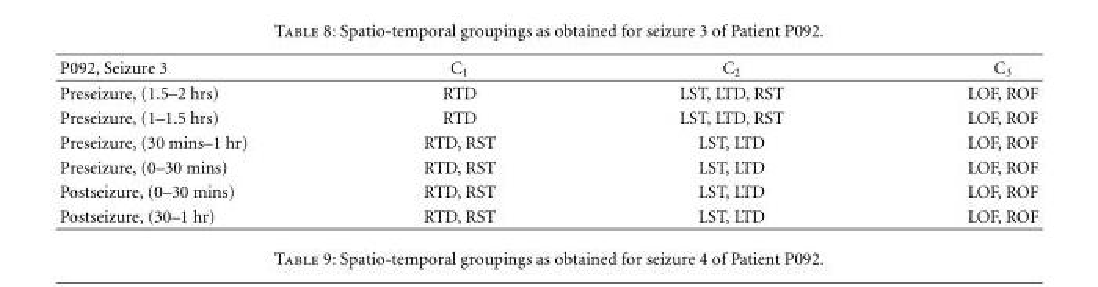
<table><thead><tr><td>P092, Seizure 3</td><td>C<sub>1</sub></td><td>C<sub>2</sub></td><td>C<sub>3</sub></td></tr></thead><tbody><tr><td>Preseizure, (1.5–2 hrs)</td><td>RTD</td><td>LST, LTD, RST</td><td>LOF, ROF</td></tr><tr><td>Preseizure, (1–1.5 hrs)</td><td>RTD</td><td>LST, LTD, RST</td><td>LOF, ROF</td></tr><tr><td>Preseizure, (30 mins–1 hr)</td><td>RTD, RST</td><td>LST, LTD</td><td>LOF, ROF</td></tr><tr><td>Preseizure, (0–30 mins)</td><td>RTD, RST</td><td>LST, LTD</td><td>LOF, ROF</td></tr><tr><td>Postseizure, (0–30 mins)</td><td>RTD, RST</td><td>LST, LTD</td><td>LOF, ROF</td></tr><tr><td>Postseizure, (30–1 hr)</td><td>RTD, RST</td><td>LST, LTD</td><td>LOF, ROF</td></tr></tbody></table>